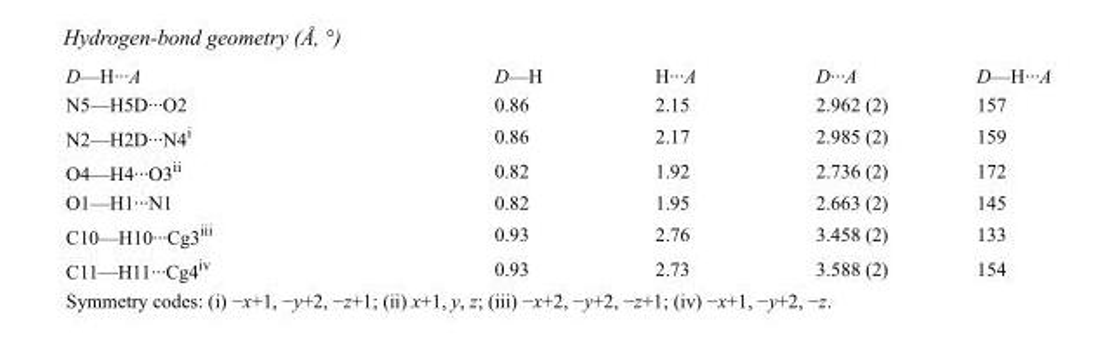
<table><tbody><tr><td>D—H···A</td><td>D—H</td><td>H···A</td><td>D···A</td><td>D—H···A</td></tr><tr><td>N5—H5D···O2</td><td>0.86</td><td>2.15</td><td>2.962 (2)</td><td>157</td></tr><tr><td>N2—H2D···N4<sup>i</sup></td><td>0.86</td><td>2.17</td><td>2.985 (2)</td><td>159</td></tr><tr><td>O4—H4···O3<sup>ii</sup></td><td>0.82</td><td>1.92</td><td>2.736 (2)</td><td>172</td></tr><tr><td>O1—H1···N1</td><td>0.82</td><td>1.95</td><td>2.663 (2)</td><td>145</td></tr><tr><td>C10—H10···Cg3<sup>iii</sup></td><td>0.93</td><td>2.76</td><td>3.458 (2)</td><td>133</td></tr><tr><td>C11—H11···Cg4<sup>iv</sup></td><td>0.93</td><td>2.73</td><td>3.588 (2)</td><td>154</td></tr></tbody></table>